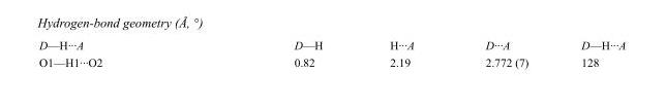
<table><tbody><tr><td>D—H···A</td><td>D—H</td><td>H···A</td><td>D···A</td><td>D—H···A</td></tr><tr><td>O1—H1···O2</td><td>0.82</td><td>2.19</td><td>2.772 (7)</td><td>128</td></tr></tbody></table>